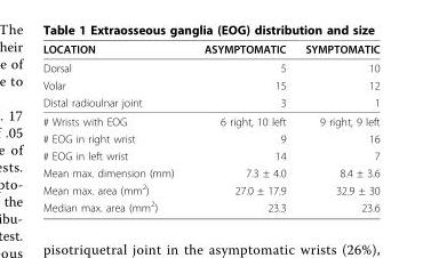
<table><thead><tr><td>LOCATION</td><td>ASYMPTOMATIC</td><td>SYMPTOMATIC</td></tr></thead><tbody><tr><td>Dorsal</td><td>5</td><td>10</td></tr><tr><td>Volar</td><td>15</td><td>12</td></tr><tr><td>Distal radioulnar joint</td><td>3</td><td>1</td></tr><tr><td># Wrists with EOG</td><td>6 right, 10 left</td><td>9 right, 9 left</td></tr><tr><td># EOG in right wrist</td><td>9</td><td>16</td></tr><tr><td># EOG in left wrist</td><td>14</td><td>7</td></tr><tr><td>Mean max. dimension (mm)</td><td>7.3 ± 4.0</td><td>8.4 ± 3.6</td></tr><tr><td>Mean max. area (mm<sup>2</sup>)</td><td>27.0 ± 17.9</td><td>32.9 ± 30</td></tr><tr><td>Median max. area (mm<sup>2</sup>)</td><td>23.3</td><td>23.6</td></tr></tbody></table>